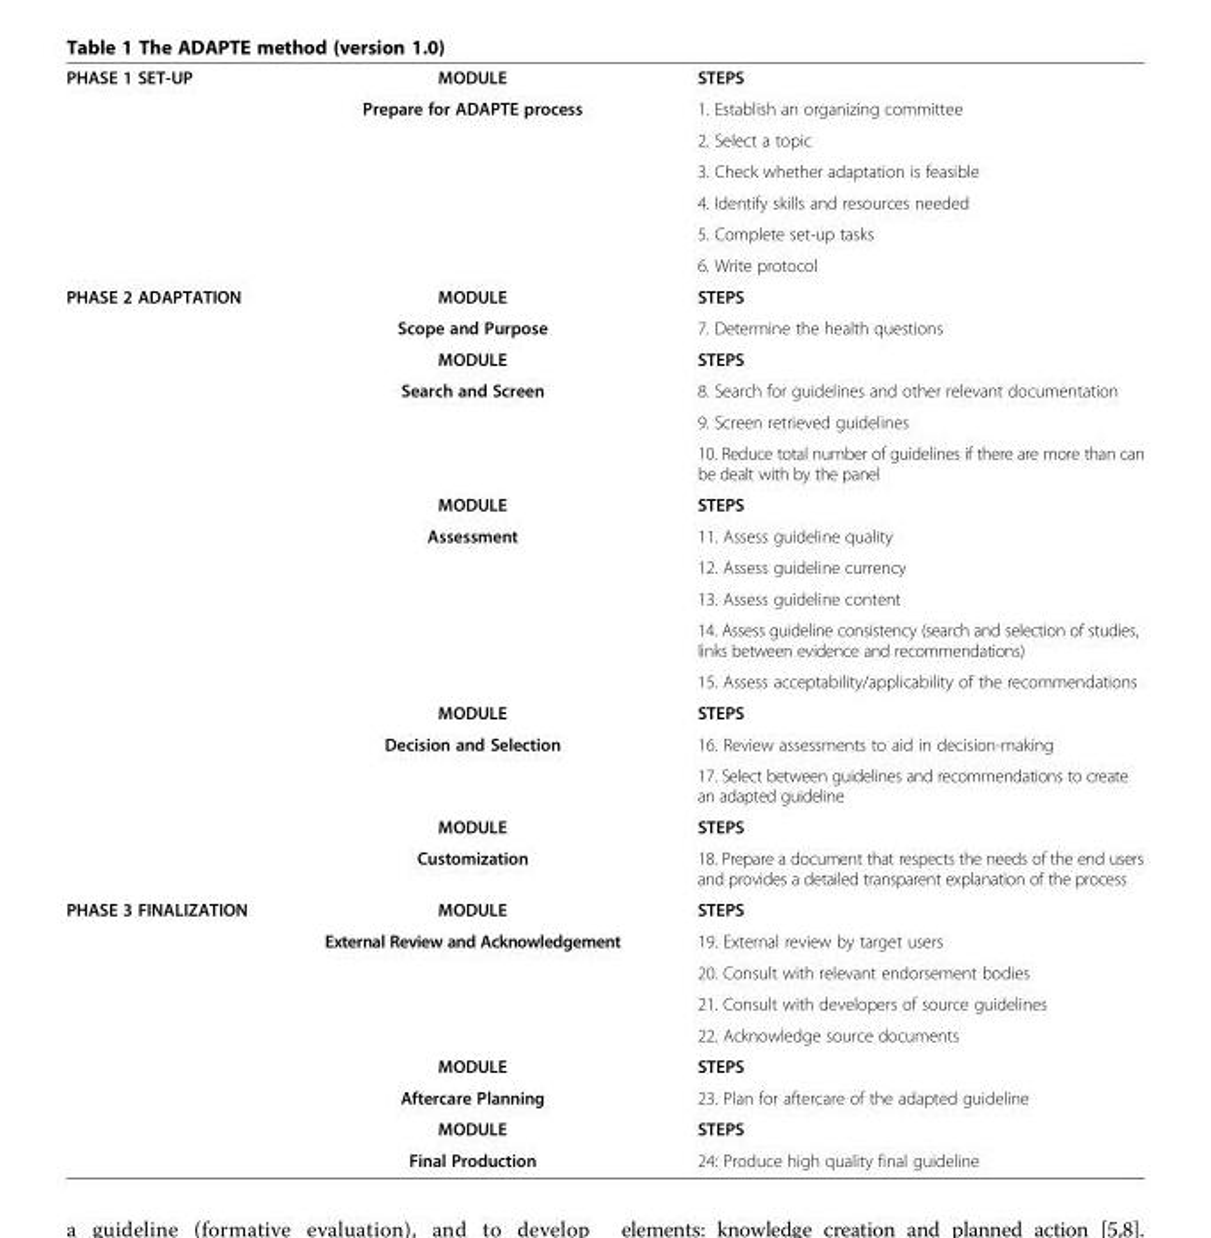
<table><tbody><tr><td rowspan="7">PHASE 1 SET-UP</td><td>MODULE</td><td>STEPS</td></tr><tr><td>Prepare for ADAPTE process</td><td>1. Establish an organizing committee</td></tr><tr><td rowspan="5"></td><td>2. Select a topic</td></tr><tr><td>3. Check whether adaptation is feasible</td></tr><tr><td>4. Identify skills and resources needed</td></tr><tr><td>5. Complete set-up tasks</td></tr><tr><td>6. Write protocol</td></tr><tr><td rowspan="17">PHASE 2 ADAPTATION</td><td>MODULE</td><td>STEPS</td></tr><tr><td>Scope and Purpose</td><td>7. Determine the health questions</td></tr><tr><td>MODULE</td><td>STEPS</td></tr><tr><td rowspan="3">Search and Screen</td><td>8. Search for guidelines and other relevant documentation</td></tr><tr><td>9. Screen retrieved guidelines</td></tr><tr><td>10. Reduce total number of guidelines if there are more than can be dealt with by the panel</td></tr><tr><td>MODULE</td><td>STEPS</td></tr><tr><td rowspan="5">Assessment</td><td>11. Assess guideline quality</td></tr><tr><td>12. Assess guideline currency</td></tr><tr><td>13. Assess guideline content</td></tr><tr><td>14. Assess guideline consistency (search and selection of studies, links between evidence and recommendations)</td></tr><tr><td>15. Assess acceptability/applicability of the recommendations</td></tr><tr><td>MODULE</td><td>STEPS</td></tr><tr><td rowspan="2">Decision and Selection</td><td>16. Review assessments to aid in decision-making</td></tr><tr><td>17. Select between guidelines and recommendations to create an adapted guideline</td></tr><tr><td>MODULE</td><td>STEPS</td></tr><tr><td>Customization</td><td>18. Prepare a document that respects the needs of the end users and provides a detailed transparent explanation of the process</td></tr><tr><td rowspan="9">PHASE 3 FINALIZATION</td><td>MODULE</td><td>STEPS</td></tr><tr><td rowspan="4">External Review and Acknowledgement</td><td>19. External review by target users</td></tr><tr><td>20. Consult with relevant endorsement bodies</td></tr><tr><td>21. Consult with developers of source guidelines</td></tr><tr><td>22. Acknowledge source documents</td></tr><tr><td>MODULE</td><td>STEPS</td></tr><tr><td>Aftercare Planning</td><td>23. Plan for aftercare of the adapted guideline</td></tr><tr><td>MODULE</td><td>STEPS</td></tr><tr><td>Final Production</td><td>24: Produce high quality final guideline</td></tr></tbody></table>